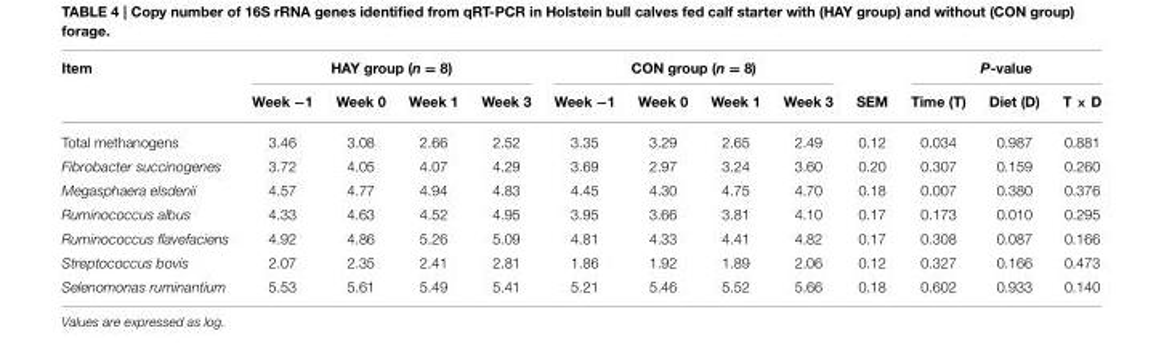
<table><thead><tr><td rowspan="2">Item</td><td colspan="4">HAY group (n = 8)</td><td colspan="4">CON group (n = 8)</td><td rowspan="2">SEM</td><td colspan="3">P-value</td></tr><tr><td>Week −1</td><td>Week 0</td><td>Week 1</td><td>Week 3</td><td>Week −1</td><td>Week 0</td><td>Week 1</td><td>Week 3</td><td>Time (T)</td><td>Diet (D)</td><td>T × D</td></tr></thead><tbody><tr><td>Total methanogens</td><td>3.46</td><td>3.08</td><td>2.66</td><td>2.52</td><td>3.35</td><td>3.29</td><td>2.65</td><td>2.49</td><td>0.12</td><td>0.034</td><td>0.987</td><td>0.881</td></tr><tr><td>Fibrobacter succinogenes</td><td>3.72</td><td>4.05</td><td>4.07</td><td>4.29</td><td>3.69</td><td>2.97</td><td>3.24</td><td>3.60</td><td>0.20</td><td>0.307</td><td>0.159</td><td>0.260</td></tr><tr><td>Megasphaera elsdenii</td><td>4.57</td><td>4.77</td><td>4.94</td><td>4.83</td><td>4.45</td><td>4.30</td><td>4.75</td><td>4.70</td><td>0.18</td><td>0.007</td><td>0.380</td><td>0.376</td></tr><tr><td>Ruminococcus albus</td><td>4.33</td><td>4.63</td><td>4.52</td><td>4.95</td><td>3.95</td><td>3.66</td><td>3.81</td><td>4.10</td><td>0.17</td><td>0.173</td><td>0.010</td><td>0.295</td></tr><tr><td>Ruminococcus flavefaciens</td><td>4.92</td><td>4.86</td><td>5.26</td><td>5.09</td><td>4.81</td><td>4.33</td><td>4.41</td><td>4.82</td><td>0.17</td><td>0.308</td><td>0.087</td><td>0.166</td></tr><tr><td>Streptococcus bovis</td><td>2.07</td><td>2.35</td><td>2.41</td><td>2.81</td><td>1.86</td><td>1.92</td><td>1.89</td><td>2.06</td><td>0.12</td><td>0.327</td><td>0.166</td><td>0.473</td></tr><tr><td>Selenomonas ruminantium</td><td>5.53</td><td>5.61</td><td>5.49</td><td>5.41</td><td>5.21</td><td>5.46</td><td>5.52</td><td>5.66</td><td>0.18</td><td>0.602</td><td>0.933</td><td>0.140</td></tr></tbody></table>